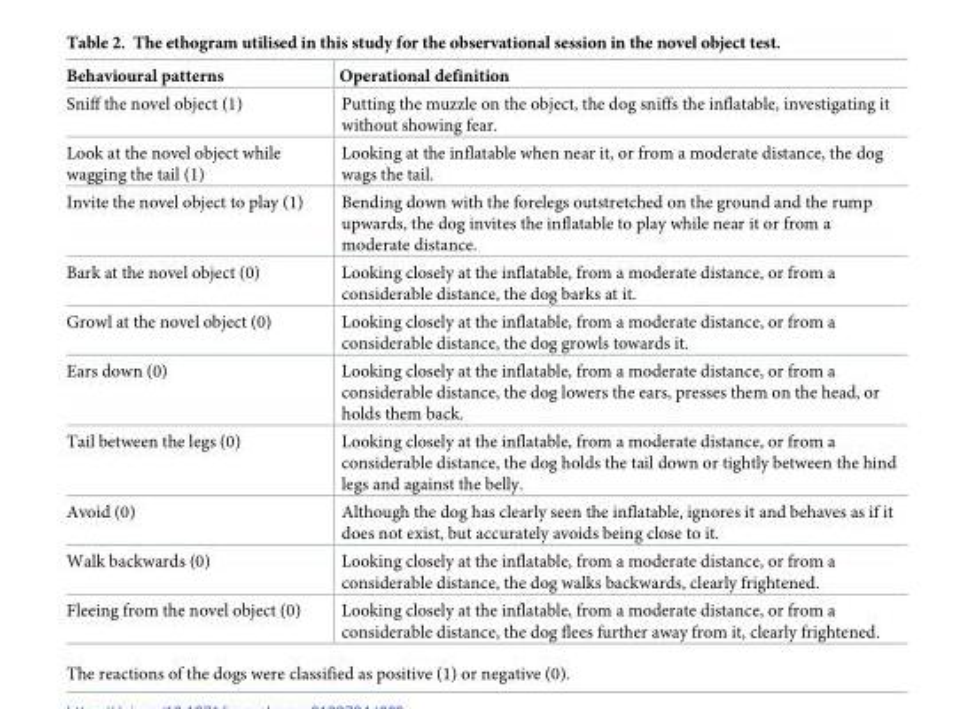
<table><thead><tr><td>Behavioural patterns</td><td>Operational definition</td></tr></thead><tbody><tr><td>Sniff the novel object (1)</td><td>Putting the muzzle on the object, the dog sniffs the inflatable, investigating it without showing fear.</td></tr><tr><td>Look at the novel object while wagging the tail (1)</td><td>Looking at the inflatable when near it, or from a moderate distance, the dog wags the tail.</td></tr><tr><td>Invite the novel object to play (1)</td><td>Bending down with the forelegs outstretched on the ground and the rump upwards, the dog invites the inflatable to play while near it or from a moderate distance.</td></tr><tr><td>Bark at the novel object (0)</td><td>Looking closely at the inflatable, from a moderate distance, or from a considerable distance, the dog barks at it.</td></tr><tr><td>Growl at the novel object (0)</td><td>Looking closely at the inflatable, from a moderate distance, or from a considerable distance, the dog growls towards it.</td></tr><tr><td>Ears down (0)</td><td>Looking closely at the inflatable, from a moderate distance, or from a considerable distance, the dog lowers the ears, presses them on the head, or holds them back.</td></tr><tr><td>Tail between the legs (0)</td><td>Looking closely at the inflatable, from a moderate distance, or from a considerable distance, the dog holds the tail down or tightly between the hind legs and against the belly.</td></tr><tr><td>Avoid (0)</td><td>Although the dog has clearly seen the inflatable, ignores it and behaves as if it does not exist, but accurately avoids being close to it.</td></tr><tr><td>Walk backwards (0)</td><td>Looking closely at the inflatable, from a moderate distance, or from a considerable distance, the dog walks backwards, clearly frightened.</td></tr><tr><td>Fleeing from the novel object (0)</td><td>Looking closely at the inflatable, from a moderate distance, or from a considerable distance, the dog flees further away from it, clearly frightened.</td></tr></tbody></table>